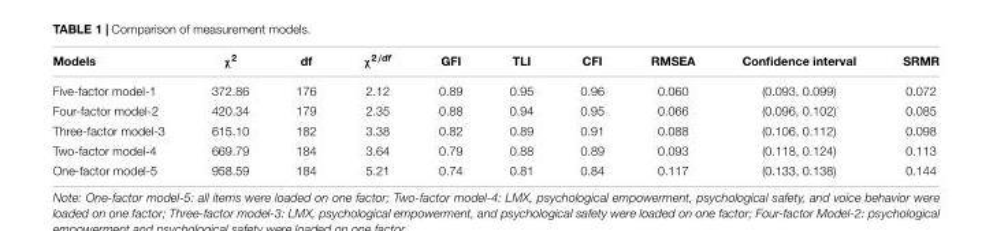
<table><thead><tr><td>Models</td><td>χ<sup>2</sup></td><td>df</td><td>χ<sup>2/df</sup></td><td>GFI</td><td>TLI</td><td>CFI</td><td>RMSEA</td><td>Confidence interval</td><td>SRMR</td></tr></thead><tbody><tr><td>Five-factor model-1</td><td>372.86</td><td>176</td><td>2.12</td><td>0.89</td><td>0.95</td><td>0.96</td><td>0.060</td><td>(0.093, 0.099)</td><td>0.072</td></tr><tr><td>Four-factor model-2</td><td>420.34</td><td>179</td><td>2.35</td><td>0.88</td><td>0.94</td><td>0.95</td><td>0.066</td><td>(0.096, 0.102)</td><td>0.085</td></tr><tr><td>Three-factor model-3</td><td>615.10</td><td>182</td><td>3.38</td><td>0.82</td><td>0.89</td><td>0.91</td><td>0.088</td><td>(0.106, 0.112)</td><td>0.098</td></tr><tr><td>Two-factor model-4</td><td>669.79</td><td>184</td><td>3.64</td><td>0.79</td><td>0.88</td><td>0.89</td><td>0.093</td><td>(0.118, 0.124)</td><td>0.113</td></tr><tr><td>One-factor model-5</td><td>958.59</td><td>184</td><td>5.21</td><td>0.74</td><td>0.81</td><td>0.84</td><td>0.117</td><td>(0.133, 0.138)</td><td>0.144</td></tr></tbody></table>